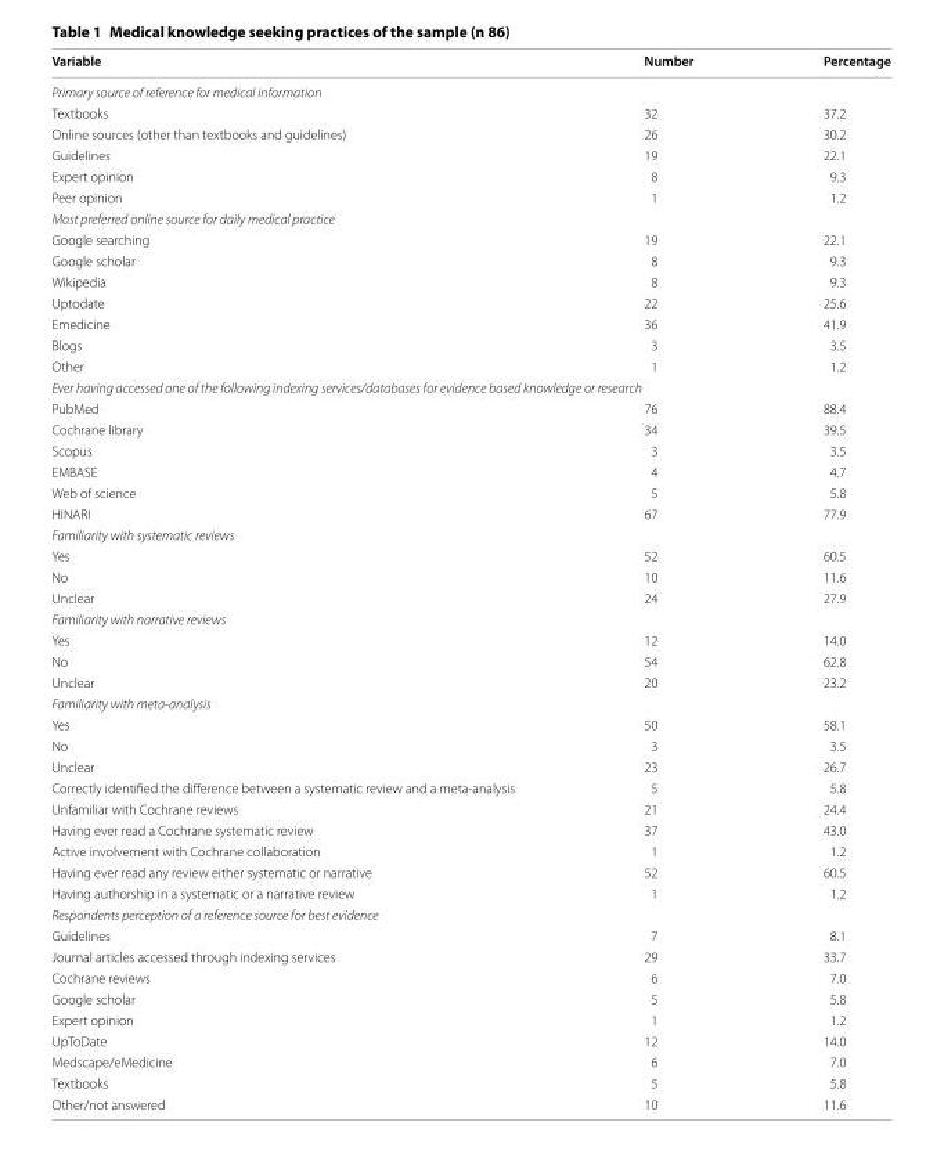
<table><thead><tr><td>Variable</td><td>Number</td><td>Percentage</td></tr></thead><tbody><tr><td colspan="3">Primary source of reference for medical information</td></tr><tr><td>Textbooks</td><td>32</td><td>37.2</td></tr><tr><td>Online sources (other than textbooks and guidelines)</td><td>26</td><td>30.2</td></tr><tr><td>Guidelines</td><td>19</td><td>22.1</td></tr><tr><td>Expert opinion</td><td>8</td><td>9.3</td></tr><tr><td>Peer opinion</td><td>1</td><td>1.2</td></tr><tr><td colspan="3">Most preferred online source for daily medical practice</td></tr><tr><td>Google searching</td><td>19</td><td>22.1</td></tr><tr><td>Google scholar</td><td>8</td><td>9.3</td></tr><tr><td>Wikipedia</td><td>8</td><td>9.3</td></tr><tr><td>Uptodate</td><td>22</td><td>25.6</td></tr><tr><td>Emedicine</td><td>36</td><td>41.9</td></tr><tr><td>Blogs</td><td>3</td><td>3.5</td></tr><tr><td>Other</td><td>1</td><td>1.2</td></tr><tr><td colspan="3">Ever having accessed one of the following indexing services/databases for evidence based knowledge or research</td></tr><tr><td>PubMed</td><td>76</td><td>88.4</td></tr><tr><td>Cochrane library</td><td>34</td><td>39.5</td></tr><tr><td>Scopus</td><td>3</td><td>3.5</td></tr><tr><td>EMBASE</td><td>4</td><td>4.7</td></tr><tr><td>Web of science</td><td>5</td><td>5.8</td></tr><tr><td>HINARI</td><td>67</td><td>77.9</td></tr><tr><td colspan="3">Familiarity with systematic reviews</td></tr><tr><td>Yes</td><td>52</td><td>60.5</td></tr><tr><td>No</td><td>10</td><td>11.6</td></tr><tr><td>Unclear</td><td>24</td><td>27.9</td></tr><tr><td colspan="3">Familiarity with narrative reviews</td></tr><tr><td>Yes</td><td>12</td><td>14.0</td></tr><tr><td>No</td><td>54</td><td>62.8</td></tr><tr><td>Unclear</td><td>20</td><td>23.2</td></tr><tr><td colspan="3">Familiarity with meta-analysis</td></tr><tr><td>Yes</td><td>50</td><td>58.1</td></tr><tr><td>No</td><td>3</td><td>3.5</td></tr><tr><td>Unclear</td><td>23</td><td>26.7</td></tr><tr><td>Correctly identified the difference between a systematic review and a meta-analysis</td><td>5</td><td>5.8</td></tr><tr><td>Unfamiliar with Cochrane reviews</td><td>21</td><td>24.4</td></tr><tr><td>Having ever read a Cochrane systematic review</td><td>37</td><td>43.0</td></tr><tr><td>Active involvement with Cochrane collaboration</td><td>1</td><td>1.2</td></tr><tr><td>Having ever read any review either systematic or narrative</td><td>52</td><td>60.5</td></tr><tr><td>Having authorship in a systematic or a narrative review</td><td>1</td><td>1.2</td></tr><tr><td colspan="3">Respondents perception of a reference source for best evidence</td></tr><tr><td>Guidelines</td><td>7</td><td>8.1</td></tr><tr><td>Journal articles accessed through indexing services</td><td>29</td><td>33.7</td></tr><tr><td>Cochrane reviews</td><td>6</td><td>7.0</td></tr><tr><td>Google scholar</td><td>5</td><td>5.8</td></tr><tr><td>Expert opinion</td><td>1</td><td>1.2</td></tr><tr><td>UpToDate</td><td>12</td><td>14.0</td></tr><tr><td>Medscape/eMedicine</td><td>6</td><td>7.0</td></tr><tr><td>Textbooks</td><td>5</td><td>5.8</td></tr><tr><td>Other/not answered</td><td>10</td><td>11.6</td></tr></tbody></table>